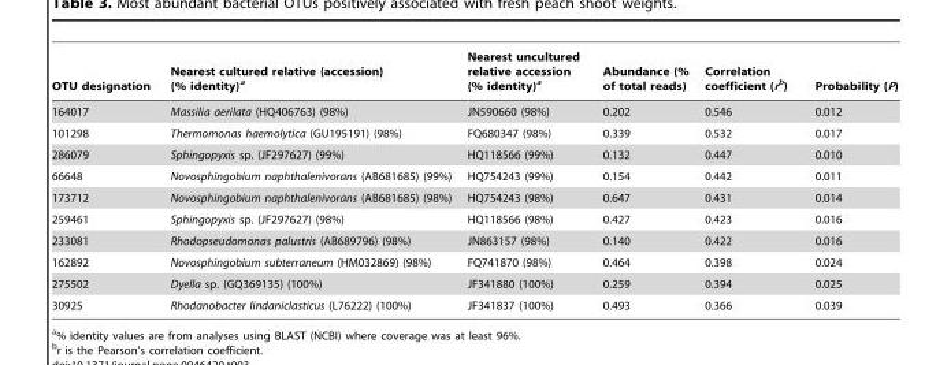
<table><thead><tr><td>OTU designation</td><td>Nearest cultured relative (accession) (% identity)<sup>a</sup></td><td>Nearest uncultured relative accession (% identity)<sup>a</sup></td><td>Abundance (% of total reads)</td><td>Correlation coefficient (rb)</td><td>Probability (P)</td></tr></thead><tbody><tr><td>164017</td><td>Massilia aerilata (HQ406763) (98%)</td><td>JN590660 (98%)</td><td>0.202</td><td>0.546</td><td>0.012</td></tr><tr><td>101298</td><td>Thermomonas haemolytica (GU195191) (98%)</td><td>FQ680347 (98%)</td><td>0.339</td><td>0.532</td><td>0.017</td></tr><tr><td>286079</td><td>Sphingopyxis sp. (JF297627) (99%)</td><td>HQ118566 (99%)</td><td>0.132</td><td>0.447</td><td>0.010</td></tr><tr><td>66648</td><td>Novosphingobium naphthalenivorans (AB681685) (99%)</td><td>HQ754243 (99%)</td><td>0.154</td><td>0.442</td><td>0.011</td></tr><tr><td>173712</td><td>Novosphingobium naphthalenivorans (AB681685) (98%)</td><td>HQ754243 (98%)</td><td>0.647</td><td>0.431</td><td>0.014</td></tr><tr><td>259461</td><td>Sphingopyxis sp. (JF297627) (98%)</td><td>HQ118566 (98%)</td><td>0.427</td><td>0.423</td><td>0.016</td></tr><tr><td>233081</td><td>Rhodopseudomonas palustris (AB689796) (98%)</td><td>JN863157 (98%)</td><td>0.140</td><td>0.422</td><td>0.016</td></tr><tr><td>162892</td><td>Novosphingobium subterraneum (HM032869) (98%)</td><td>FQ741870 (98%)</td><td>0.464</td><td>0.398</td><td>0.024</td></tr><tr><td>275502</td><td>Dyella sp. (GQ369135) (100%)</td><td>JF341880 (100%)</td><td>0.259</td><td>0.394</td><td>0.025</td></tr><tr><td>30925</td><td>Rhodanobacter lindaniclasticus (L76222) (100%)</td><td>JF341837 (100%)</td><td>0.493</td><td>0.366</td><td>0.039</td></tr></tbody></table>